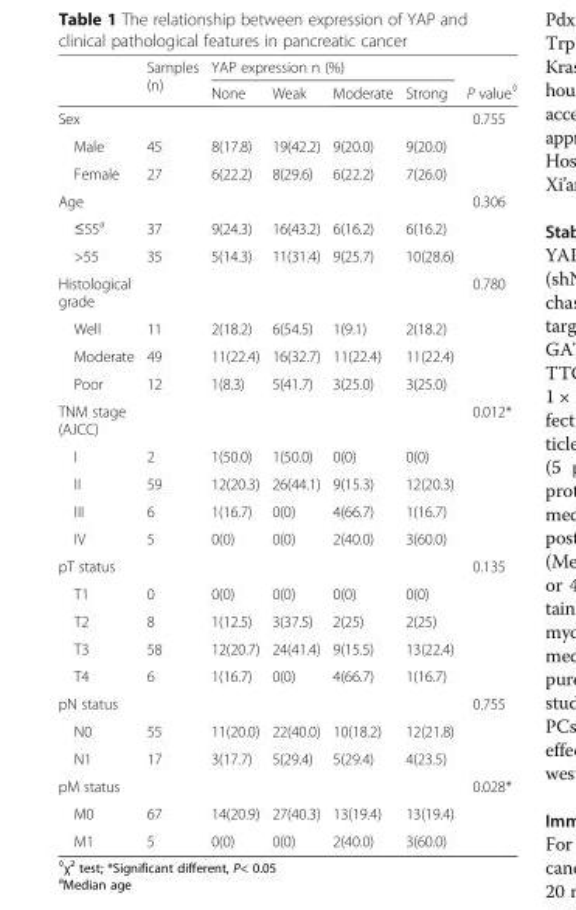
<table><thead><tr><td rowspan="2"></td><td rowspan="2">Samples (n)</td><td colspan="4">YAP expression n (%)</td><td rowspan="2">P value<sup>◊</sup></td></tr><tr><td>None</td><td>Weak</td><td>Moderate</td><td>Strong</td></tr></thead><tbody><tr><td>Sex</td><td></td><td></td><td></td><td></td><td></td><td>0.755</td></tr><tr><td>Male</td><td>45</td><td>8(17.8)</td><td>19(42.2)</td><td>9(20.0)</td><td>9(20.0)</td><td></td></tr><tr><td>Female</td><td>27</td><td>6(22.2)</td><td>8(29.6)</td><td>6(22.2)</td><td>7(26.0)</td><td></td></tr><tr><td>Age</td><td></td><td></td><td></td><td></td><td></td><td>0.306</td></tr><tr><td>≤55<sup>a</sup></td><td>37</td><td>9(24.3)</td><td>16(43.2)</td><td>6(16.2)</td><td>6(16.2)</td><td></td></tr><tr><td>&gt;55</td><td>35</td><td>5(14.3)</td><td>11(31.4)</td><td>9(25.7)</td><td>10(28.6)</td><td></td></tr><tr><td>Histological grade</td><td></td><td></td><td></td><td></td><td></td><td>0.780</td></tr><tr><td>Well</td><td>11</td><td>2(18.2)</td><td>6(54.5)</td><td>1(9.1)</td><td>2(18.2)</td><td></td></tr><tr><td>Moderate</td><td>49</td><td>11(22.4)</td><td>16(32.7)</td><td>11(22.4)</td><td>11(22.4)</td><td></td></tr><tr><td>Poor</td><td>12</td><td>1(8.3)</td><td>5(41.7)</td><td>3(25.0)</td><td>3(25.0)</td><td></td></tr><tr><td>TNM stage (AJCC)</td><td></td><td></td><td></td><td></td><td></td><td>0.012*</td></tr><tr><td>I</td><td>2</td><td>1(50.0)</td><td>1(50.0)</td><td>0(0)</td><td>0(0)</td><td></td></tr><tr><td>II</td><td>59</td><td>12(20.3)</td><td>26(44.1)</td><td>9(15.3)</td><td>12(20.3)</td><td></td></tr><tr><td>III</td><td>6</td><td>1(16.7)</td><td>0(0)</td><td>4(66.7)</td><td>1(16.7)</td><td></td></tr><tr><td>IV</td><td>5</td><td>0(0)</td><td>0(0)</td><td>2(40.0)</td><td>3(60.0)</td><td></td></tr><tr><td>pT status</td><td></td><td></td><td></td><td></td><td></td><td>0.135</td></tr><tr><td>T1</td><td>0</td><td>0(0)</td><td>0(0)</td><td>0(0)</td><td>0(0)</td><td></td></tr><tr><td>T2</td><td>8</td><td>1(12.5)</td><td>3(37.5)</td><td>2(25)</td><td>2(25)</td><td></td></tr><tr><td>T3</td><td>58</td><td>12(20.7)</td><td>24(41.4)</td><td>9(15.5)</td><td>13(22.4)</td><td></td></tr><tr><td>T4</td><td>6</td><td>1(16.7)</td><td>0(0)</td><td>4(66.7)</td><td>1(16.7)</td><td></td></tr><tr><td>pN status</td><td></td><td></td><td></td><td></td><td></td><td>0.755</td></tr><tr><td>N0</td><td>55</td><td>11(20.0)</td><td>22(40.0)</td><td>10(18.2)</td><td>12(21.8)</td><td></td></tr><tr><td>N1</td><td>17</td><td>3(17.7)</td><td>5(29.4)</td><td>5(29.4)</td><td>4(23.5)</td><td></td></tr><tr><td>pM status</td><td></td><td></td><td></td><td></td><td></td><td>0.028*</td></tr><tr><td>M0</td><td>67</td><td>14(20.9)</td><td>27(40.3)</td><td>13(19.4)</td><td>13(19.4)</td><td></td></tr><tr><td>M1</td><td>5</td><td>0(0)</td><td>0(0)</td><td>2(40.0)</td><td>3(60.0)</td><td></td></tr></tbody></table>